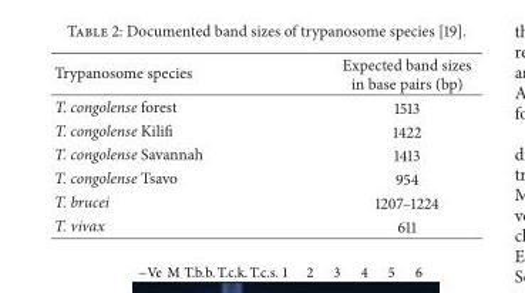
<table><thead><tr><td>Trypanosome species</td><td>Expected band sizes in base pairs (bp)</td></tr></thead><tbody><tr><td>T. congolense forest</td><td>1513</td></tr><tr><td>T. congolense Kilifi</td><td>1422</td></tr><tr><td>T. congolense Savannah</td><td>1413</td></tr><tr><td>T. congolense Tsavo</td><td>954</td></tr><tr><td>T. brucei</td><td>1207–1224</td></tr><tr><td>T. vivax</td><td>611</td></tr></tbody></table>